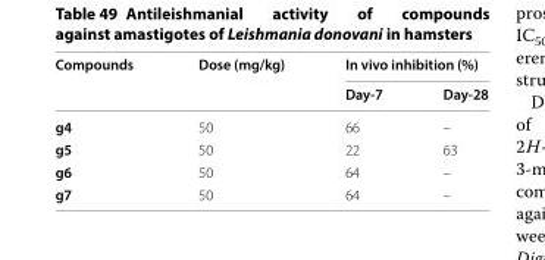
<table><thead><tr><td rowspan="2">Compounds</td><td rowspan="2">Dose (mg/kg)</td><td colspan="2">In vivo inhibition (%)</td></tr><tr><td>Day-7</td><td>Day-28</td></tr></thead><tbody><tr><td>g4</td><td>50</td><td>66</td><td>–</td></tr><tr><td>g5</td><td>50</td><td>22</td><td>63</td></tr><tr><td>g6</td><td>50</td><td>64</td><td>–</td></tr><tr><td>g7</td><td>50</td><td>64</td><td>–</td></tr></tbody></table>